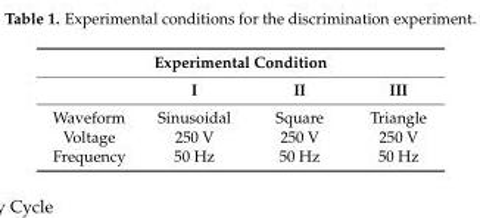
<table><thead><tr><td colspan="4">Experimental Condition</td></tr><tr><td></td><td>I</td><td>II</td><td>III</td></tr></thead><tbody><tr><td>Waveform</td><td>Sinusoidal</td><td>Square</td><td>Triangle</td></tr><tr><td>Voltage</td><td>250 V</td><td>250 V</td><td>250 V</td></tr><tr><td>Frequency</td><td>50 Hz</td><td>50 Hz</td><td>50 Hz</td></tr></tbody></table>